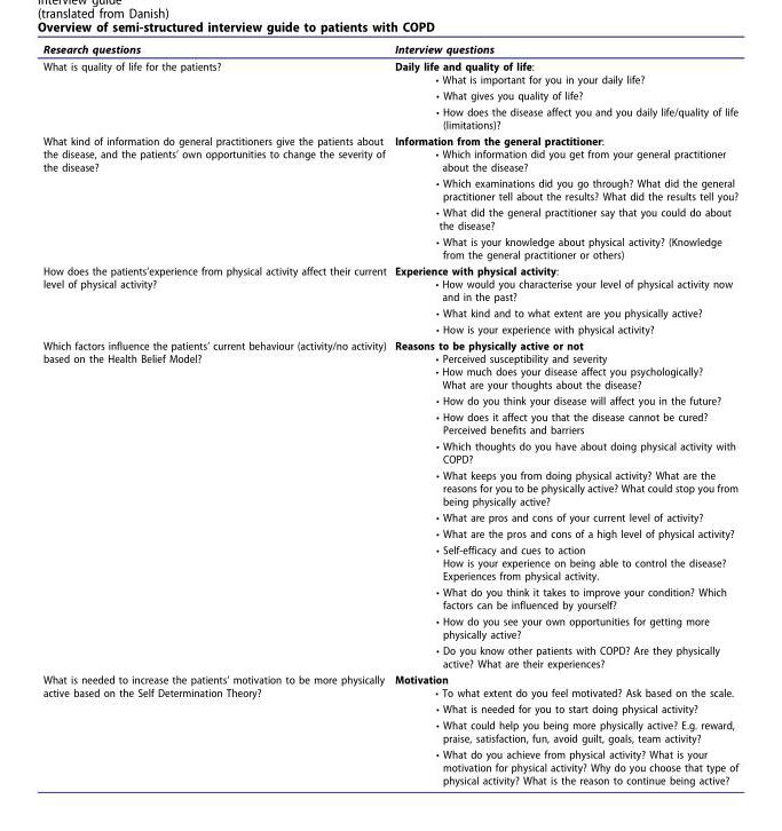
<table><thead><tr><td>Research questions</td><td>Interview questions</td></tr></thead><tbody><tr><td rowspan="3">What is quality of life for the patients?</td><td>Daily life and quality of life: • What is important for you in your daily life?</td></tr><tr><td>• What gives you quality of life?</td></tr><tr><td>• How does the disease affect you and you daily life/quality of life (limitations)?</td></tr><tr><td rowspan="4">What kind of information do general practitioners give the patients about the disease, and the patients’ own opportunities to change the severity of the disease?</td><td>Information from the general practitioner: • Which information did you get from your general practitioner about the disease?</td></tr><tr><td>• Which examinations did you go through? What did the general practitioner tell about the results? What did the results tell you?</td></tr><tr><td>• What did the general practitioner say that you could do about the disease?</td></tr><tr><td>• What is your knowledge about physical activity? (Knowledge from the general practitioner or others)</td></tr><tr><td rowspan="3">How does the patients’experience from physical activity affect their current level of physical activity?</td><td>Experience with physical activity: • How would you characterise your level of physical activity now and in the past?</td></tr><tr><td>• What kind and to what extent are you physically active?</td></tr><tr><td>• How is your experience with physical activity?</td></tr><tr><td rowspan="11">Which factors influence the patients’ current behaviour (activity/no activity) based on the Health Belief Model?</td><td>Reasons to be physically active or not • Perceived susceptibility and severity • How much does your disease affect you psychologically? What are your thoughts about the disease?</td></tr><tr><td>• How do you think your disease will affect you in the future?</td></tr><tr><td>• How does it affect you that the disease cannot be cured? Perceived benefits and barriers</td></tr><tr><td>• Which thoughts do you have about doing physical activity with COPD?</td></tr><tr><td>• What keeps you from doing physical activity? What are the reasons for you to be physically active? What could stop you from being physically active?</td></tr><tr><td>• What are pros and cons of your current level of activity?</td></tr><tr><td>• What are the pros and cons of a high level of physical activity?</td></tr><tr><td>• Self-efficacy and cues to action How is your experience on being able to control the disease? Experiences from physical activity.</td></tr><tr><td>• What do you think it takes to improve your condition? Which factors can be influenced by yourself?</td></tr><tr><td>• How do you see your own opportunities for getting more physically active?</td></tr><tr><td>• Do you know other patients with COPD? Are they physically active? What are their experiences?</td></tr><tr><td rowspan="4">What is needed to increase the patients’ motivation to be more physically active based on the Self Determination Theory?</td><td>Motivation • To what extent do you feel motivated? Ask based on the scale.</td></tr><tr><td>• What is needed for you to start doing physical activity?</td></tr><tr><td>• What could help you being more physically active? E.g. reward, praise, satisfaction, fun, avoid guilt, goals, team activity?</td></tr><tr><td>• What do you achieve from physical activity? What is your motivation for physical activity? Why do you choose that type of physical activity? What is the reason to continue being active?</td></tr></tbody></table>